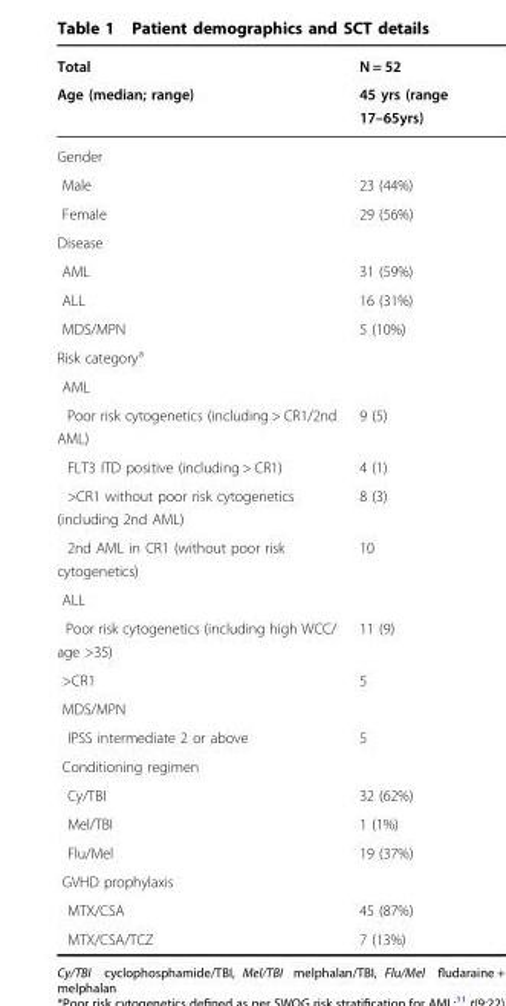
<table><thead><tr><td rowspan="2">Total Age (median; range)</td><td rowspan="2">N = 52 45 yrs (range 17–65yrs)</td></tr><tr></tr></thead><tbody><tr><td colspan="2">Gender</td></tr><tr><td>Male</td><td>23 (44%)</td></tr><tr><td>Female</td><td>29 (56%)</td></tr><tr><td colspan="2">Disease</td></tr><tr><td>AML</td><td>31 (59%)</td></tr><tr><td>ALL</td><td>16 (31%)</td></tr><tr><td>MDS/MPN</td><td>5 (10%)</td></tr><tr><td colspan="2">Risk category<sup>a</sup></td></tr><tr><td colspan="2">AML</td></tr><tr><td>Poor risk cytogenetics (including &gt; CR1/2nd AML)</td><td>9 (5)</td></tr><tr><td>FLT3 ITD positive (including &gt; CR1)</td><td>4 (1)</td></tr><tr><td>&gt;CR1 without poor risk cytogenetics (including 2nd AML)</td><td>8 (3)</td></tr><tr><td>2nd AML in CR1 (without poor risk cytogenetics)</td><td>10</td></tr><tr><td colspan="2">ALL</td></tr><tr><td>Poor risk cytogenetics (including high WCC/ age &gt;35)</td><td>11 (9)</td></tr><tr><td>&gt;CR1</td><td>5</td></tr><tr><td colspan="2">MDS/MPN</td></tr><tr><td>IPSS intermediate 2 or above</td><td>5</td></tr><tr><td colspan="2">Conditioning regimen</td></tr><tr><td>Cy/TBI</td><td>32 (62%)</td></tr><tr><td>Mel/TBI</td><td>1 (1%)</td></tr><tr><td>Flu/Mel</td><td>19 (37%)</td></tr><tr><td colspan="2">GVHD prophylaxis</td></tr><tr><td>MTX/CSA</td><td>45 (87%)</td></tr><tr><td>MTX/CSA/TCZ</td><td>7 (13%)</td></tr></tbody></table>